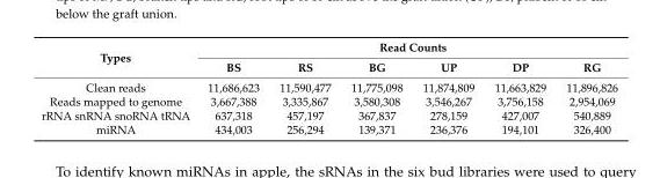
<table><thead><tr><td rowspan="2">Types</td><td colspan="6">Read Counts</td></tr><tr><td>BS</td><td>RS</td><td>BG</td><td>UP</td><td>DP</td><td>RG</td></tr></thead><tbody><tr><td>Clean reads</td><td>11,686,623</td><td>11,590,477</td><td>11,775,098</td><td>11,874,809</td><td>11,663,829</td><td>11,896,826</td></tr><tr><td>Reads mapped to genome</td><td>3,667,388</td><td>3,335,867</td><td>3,580,308</td><td>3,546,267</td><td>3,756,158</td><td>2,954,069</td></tr><tr><td>rRNA snRNA snoRNA tRNA</td><td>637,318</td><td>457,197</td><td>367,837</td><td>278,159</td><td>427,007</td><td>540,889</td></tr><tr><td>miRNA</td><td>434,003</td><td>256,294</td><td>139,371</td><td>236,376</td><td>194,101</td><td>326,400</td></tr></tbody></table>